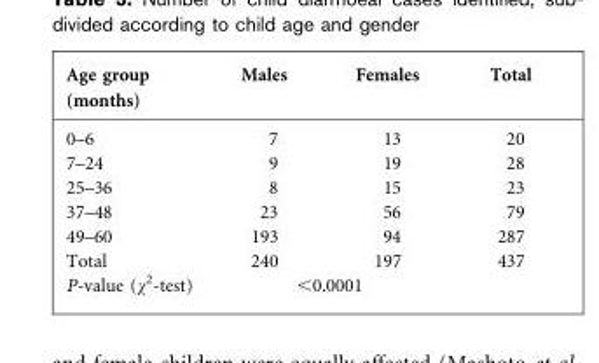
<table><thead><tr><td>Age group (months)</td><td>Males</td><td>Females</td><td>Total</td></tr></thead><tbody><tr><td>0–6</td><td>7</td><td>13</td><td>20</td></tr><tr><td>7–24</td><td>9</td><td>19</td><td>28</td></tr><tr><td>25–36</td><td>8</td><td>15</td><td>23</td></tr><tr><td>37–48</td><td>23</td><td>56</td><td>79</td></tr><tr><td>49–60</td><td>193</td><td>94</td><td>287</td></tr><tr><td>Total</td><td>240</td><td>197</td><td>437</td></tr><tr><td>P-value (χ<sup>2</sup>-test)</td><td colspan="2">&lt;0.0001</td><td></td></tr></tbody></table>